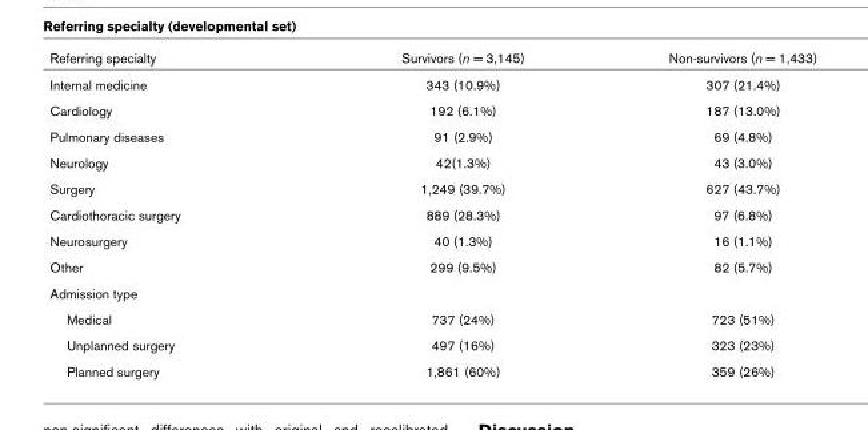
<table><thead><tr><td>Referring specialty</td><td>Survivors (n = 3,145)</td><td>Non-survivors (n = 1,433)</td></tr></thead><tbody><tr><td>Internal medicine</td><td>343 (10.9%)</td><td>307 (21.4%)</td></tr><tr><td>Cardiology</td><td>192 (6.1%)</td><td>187 (13.0%)</td></tr><tr><td>Pulmonary diseases</td><td>91 (2.9%)</td><td>69 (4.8%)</td></tr><tr><td>Neurology</td><td>42(1.3%)</td><td>43 (3.0%)</td></tr><tr><td>Surgery</td><td>1,249 (39.7%)</td><td>627 (43.7%)</td></tr><tr><td>Cardiothoracic surgery</td><td>889 (28.3%)</td><td>97 (6.8%)</td></tr><tr><td>Neurosurgery</td><td>40 (1.3%)</td><td>16 (1.1%)</td></tr><tr><td>Other</td><td>299 (9.5%)</td><td>82 (5.7%)</td></tr><tr><td colspan="3">Admission type</td></tr><tr><td>Medical</td><td>737 (24%)</td><td>723 (51%)</td></tr><tr><td>Unplanned surgery</td><td>497 (16%)</td><td>323 (23%)</td></tr><tr><td>Planned surgery</td><td>1,861 (60%)</td><td>359 (26%)</td></tr></tbody></table>